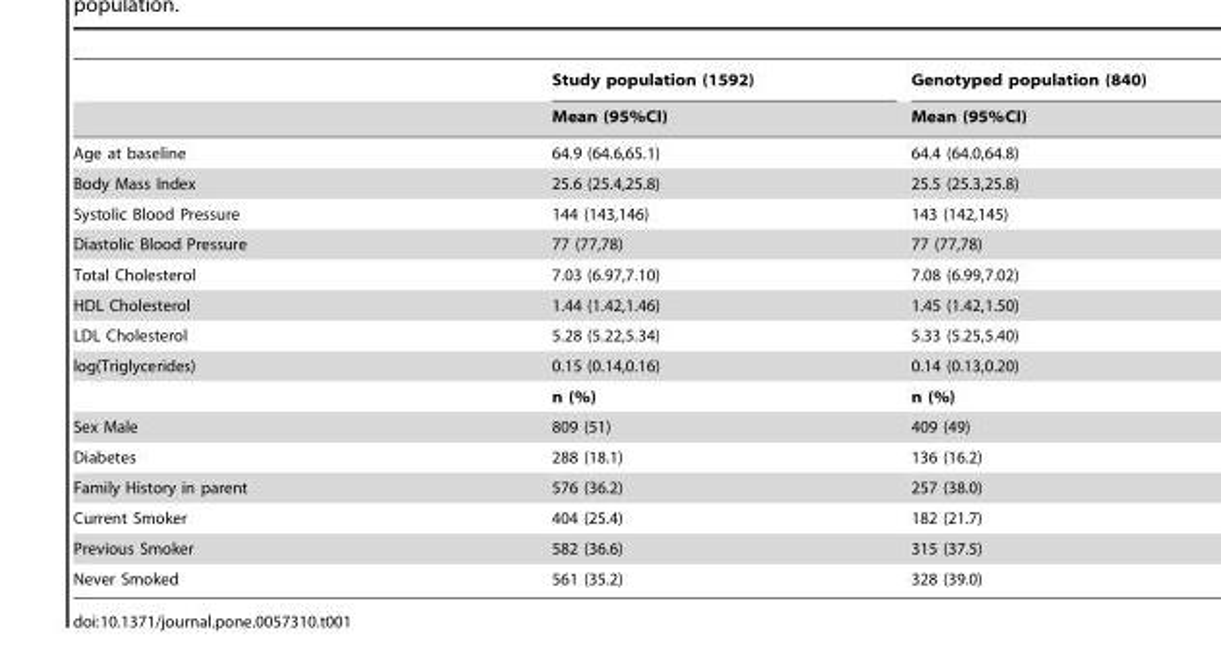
<table><thead><tr><td rowspan="2"></td><td rowspan="2">Study population (1592) Mean (95%CI)</td><td rowspan="2">Genotyped population (840) Mean (95%CI)</td></tr><tr></tr></thead><tbody><tr><td>Age at baseline</td><td>64.9 (64.6,65.1)</td><td>64.4 (64.0,64.8)</td></tr><tr><td>Body Mass Index</td><td>25.6 (25.4,25.8)</td><td>25.5 (25.3,25.8)</td></tr><tr><td>Systolic Blood Pressure</td><td>144 (143,146)</td><td>143 (142,145)</td></tr><tr><td>Diastolic Blood Pressure</td><td>77 (77,78)</td><td>77 (77,78)</td></tr><tr><td>Total Cholesterol</td><td>7.03 (6.97,7.10)</td><td>7.08 (6.99,7.02)</td></tr><tr><td>HDL Cholesterol</td><td>1.44 (1.42,1.46)</td><td>1.45 (1.42,1.50)</td></tr><tr><td>LDL Cholesterol</td><td>5.28 (5.22,5.34)</td><td>5.33 (5.25,5.40)</td></tr><tr><td rowspan="2">log(Triglycerides)</td><td>0.15 (0.14,0.16)</td><td>0.14 (0.13,0.20)</td></tr><tr><td>n (%)</td><td>n (%)</td></tr><tr><td>Sex Male</td><td>809 (51)</td><td>409 (49)</td></tr><tr><td>Diabetes</td><td>288 (18.1)</td><td>136 (16.2)</td></tr><tr><td>Family History in parent</td><td>576 (36.2)</td><td>257 (38.0)</td></tr><tr><td>Current Smoker</td><td>404 (25.4)</td><td>182 (21.7)</td></tr><tr><td>Previous Smoker</td><td>582 (36.6)</td><td>315 (37.5)</td></tr><tr><td>Never Smoked</td><td>561 (35.2)</td><td>328 (39.0)</td></tr></tbody></table>